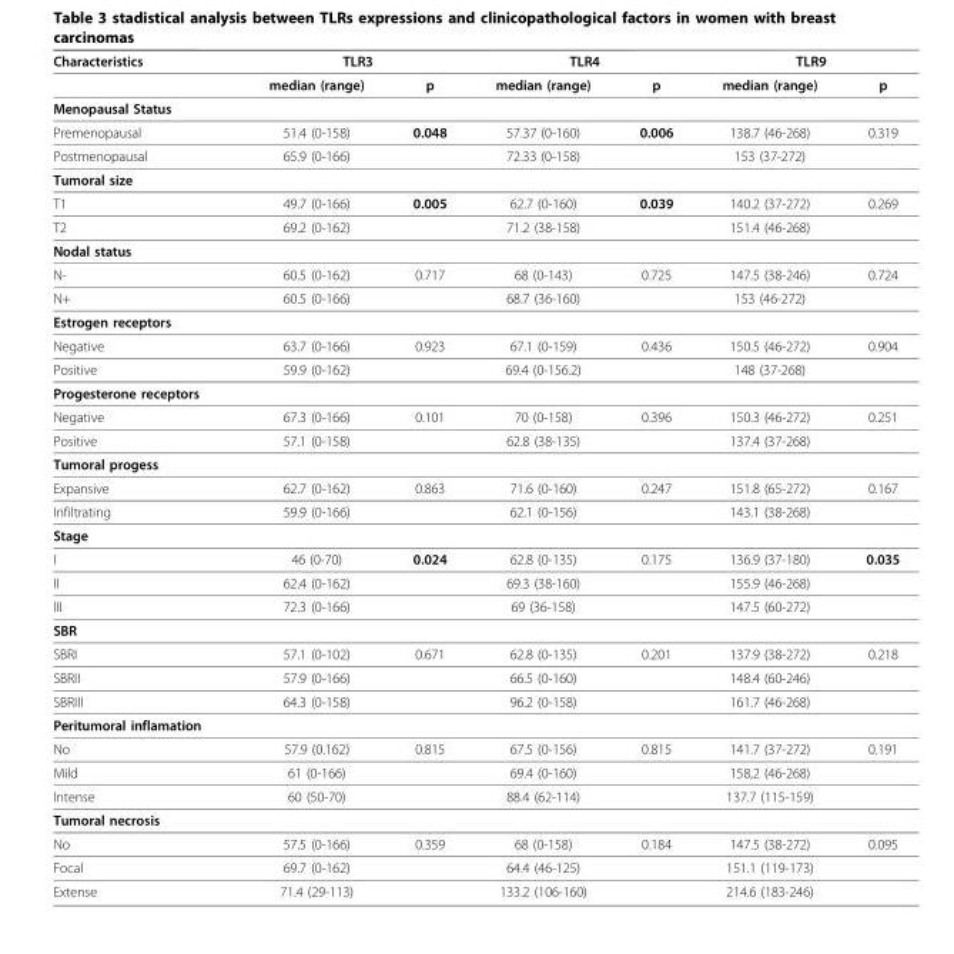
<table><thead><tr><td rowspan="2">Characteristics</td><td colspan="2">TLR3</td><td colspan="2">TLR4</td><td colspan="2">TLR9</td></tr><tr><td>median (range)</td><td>p</td><td>median (range)</td><td>p</td><td>median (range)</td><td>p</td></tr></thead><tbody><tr><td colspan="7">Menopausal Status</td></tr><tr><td>Premenopausal</td><td>51.4 (0-158)</td><td>0.048</td><td>57.37 (0-160)</td><td>0.006</td><td>138.7 (46-268)</td><td>0.319</td></tr><tr><td>Postmenopausal</td><td>65.9 (0-166)</td><td></td><td>72.33 (0-158)</td><td></td><td>153 (37-272)</td><td></td></tr><tr><td colspan="7">Tumoral size</td></tr><tr><td>T1</td><td>49.7 (0-166)</td><td>0.005</td><td>62.7 (0-160)</td><td>0.039</td><td>140.2 (37-272)</td><td>0.269</td></tr><tr><td>T2</td><td>69.2 (0-162)</td><td></td><td>71.2 (38-158)</td><td></td><td>151.4 (46-268)</td><td></td></tr><tr><td colspan="7">Nodal status</td></tr><tr><td>N-</td><td>60.5 (0-162)</td><td>0.717</td><td>68 (0-143)</td><td>0.725</td><td>147.5 (38-246)</td><td>0.724</td></tr><tr><td>N+</td><td>60.5 (0-166)</td><td></td><td>68.7 (36-160)</td><td></td><td>153 (46-272)</td><td></td></tr><tr><td colspan="7">Estrogen receptors</td></tr><tr><td>Negative</td><td>63.7 (0-166)</td><td>0.923</td><td>67.1 (0-159)</td><td>0.436</td><td>150.5 (46-272)</td><td>0.904</td></tr><tr><td>Positive</td><td>59.9 (0-162)</td><td></td><td>69.4 (0-156.2)</td><td></td><td>148 (37-268)</td><td></td></tr><tr><td colspan="7">Progesterone receptors</td></tr><tr><td>Negative</td><td>67.3 (0-166)</td><td>0.101</td><td>70 (0-158)</td><td>0.396</td><td>150.3 (46-272)</td><td>0.251</td></tr><tr><td>Positive</td><td>57.1 (0-158)</td><td></td><td>62.8 (38-135)</td><td></td><td>137.4 (37-268)</td><td></td></tr><tr><td colspan="7">Tumoral progess</td></tr><tr><td>Expansive</td><td>62.7 (0-162)</td><td>0.863</td><td>71.6 (0-160)</td><td>0.247</td><td>151.8 (65-272)</td><td>0.167</td></tr><tr><td>Infiltrating</td><td>59.9 (0-166)</td><td></td><td>62.1 (0-156)</td><td></td><td>143.1 (38-268)</td><td></td></tr><tr><td colspan="7">Stage</td></tr><tr><td>I</td><td>46 (0-70)</td><td>0.024</td><td>62.8 (0-135)</td><td>0.175</td><td>136.9 (37-180)</td><td>0.035</td></tr><tr><td>II</td><td>62.4 (0-162)</td><td></td><td>69.3 (38-160)</td><td></td><td>155.9 (46-268)</td><td></td></tr><tr><td>III</td><td>72.3 (0-166)</td><td></td><td>69 (36-158)</td><td></td><td>147.5 (60-272)</td><td></td></tr><tr><td colspan="7">SBR</td></tr><tr><td>SBRI</td><td>57.1 (0-102)</td><td>0.671</td><td>62.8 (0-135)</td><td>0.201</td><td>137.9 (38-272)</td><td>0.218</td></tr><tr><td>SBRII</td><td>57.9 (0-166)</td><td></td><td>66.5 (0-160)</td><td></td><td>148.4 (60-246)</td><td></td></tr><tr><td>SBRIII</td><td>64.3 (0-158)</td><td></td><td>96.2 (0-158)</td><td></td><td>161.7 (46-268)</td><td></td></tr><tr><td colspan="7">Peritumoral inflamation</td></tr><tr><td>No</td><td>57.9 (0.162)</td><td>0.815</td><td>67.5 (0-156)</td><td>0.815</td><td>141.7 (37-272)</td><td>0.191</td></tr><tr><td>Mild</td><td>61 (0-166)</td><td></td><td>69.4 (0-160)</td><td></td><td>158,2 (46-268)</td><td></td></tr><tr><td>Intense</td><td>60 (50-70)</td><td></td><td>88.4 (62-114)</td><td></td><td>137.7 (115-159)</td><td></td></tr><tr><td colspan="7">Tumoral necrosis</td></tr><tr><td>No</td><td>57.5 (0-166)</td><td>0.359</td><td>68 (0-158)</td><td>0.184</td><td>147.5 (38-272)</td><td>0.095</td></tr><tr><td>Focal</td><td>69.7 (0-162)</td><td></td><td>64.4 (46-125)</td><td></td><td>151.1 (119-173)</td><td></td></tr><tr><td>Extense</td><td>71.4 (29-113)</td><td></td><td>133.2 (106-160)</td><td></td><td>214.6 (183-246)</td><td></td></tr></tbody></table>